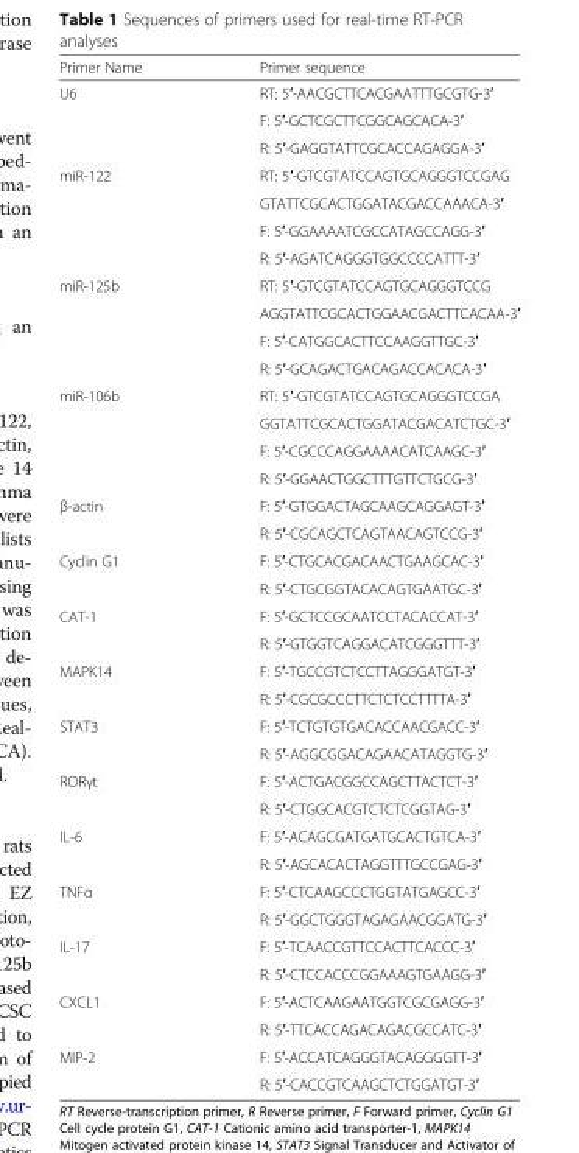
<table><thead><tr><td>Primer Name</td><td>Primer sequence</td></tr></thead><tbody><tr><td rowspan="3">U6</td><td>RT: 5′-AACGCTTCACGAATTTGCGTG-3′</td></tr><tr><td>F: 5′-GCTCGCTTCGGCAGCACA-3′</td></tr><tr><td>R: 5′-GAGGTATTCGCACCAGAGGA-3′</td></tr><tr><td rowspan="4">miR-122</td><td>RT: 5′-GTCGTATCCAGTGCAGGGTCCGAG</td></tr><tr><td>GTATTCGCACTGGATACGACCAAACA-3′</td></tr><tr><td>F: 5′-GGAAAATCGCCATAGCCAGG-3′</td></tr><tr><td>R: 5′-AGATCAGGGTGGCCCCATTT-3′</td></tr><tr><td rowspan="4">miR-125b</td><td>RT: 5′-GTCGTATCCAGTGCAGGGTCCG</td></tr><tr><td>AGGTATTCGCACTGGAACGACTTCACAA-3′</td></tr><tr><td>F: 5′-CATGGCACTTCCAAGGTTGC-3′</td></tr><tr><td>R: 5′-GCAGACTGACAGACCACACA-3′</td></tr><tr><td rowspan="4">miR-106b</td><td>RT: 5′-GTCGTATCCAGTGCAGGGTCCGA</td></tr><tr><td>GGTATTCGCACTGGATACGACATCTGC-3′</td></tr><tr><td>F: 5′-CGCCCAGGAAAACATCAAGC-3′</td></tr><tr><td>R: 5′-GGAACTGGCTTTGTTCTGCG-3′</td></tr><tr><td rowspan="2">β-actin</td><td>F: 5′-GTGGACTAGCAAGCAGGAGT-3′</td></tr><tr><td>R: 5′-CGCAGCTCAGTAACAGTCCG-3′</td></tr><tr><td rowspan="2">Cyclin G1</td><td>F: 5′-CTGCACGACAACTGAAGCAC-3′</td></tr><tr><td>R: 5′-CTGCGGTACACAGTGAATGC-3′</td></tr><tr><td rowspan="2">CAT-1</td><td>F: 5′-GCTCCGCAATCCTACACCAT-3′</td></tr><tr><td>R: 5′-GTGGTCAGGACATCGGGTTT-3′</td></tr><tr><td rowspan="2">MAPK14</td><td>F: 5′-TGCCGTCTCCTTAGGGATGT-3′</td></tr><tr><td>R: 5′-CGCGCCCTTCTCTCCTTTTA-3′</td></tr><tr><td rowspan="2">STAT3</td><td>F: 5′-TCTGTGTGACACCAACGACC-3′</td></tr><tr><td>R: 5′-AGGCGGACAGAACATAGGTG-3′</td></tr><tr><td rowspan="2">RORγt</td><td>F: 5′-ACTGACGGCCAGCTTACTCT-3′</td></tr><tr><td>R: 5′-CTGGCACGTCTCTCGGTAG-3′</td></tr><tr><td rowspan="2">IL-6</td><td>F: 5′-ACAGCGATGATGCACTGTCA-3′</td></tr><tr><td>R: 5′-AGCACACTAGGTTTGCCGAG-3′</td></tr><tr><td rowspan="2">TNFα</td><td>F: 5′-CTCAAGCCCTGGTATGAGCC-3′</td></tr><tr><td>R: 5′-GGCTGGGTAGAGAACGGATG-3′</td></tr><tr><td rowspan="2">IL-17</td><td>F: 5′-TCAACCGTTCCACTTCACCC-3′</td></tr><tr><td>R: 5′-CTCCACCCGGAAAGTGAAGG-3′</td></tr><tr><td rowspan="2">CXCL1</td><td>F: 5′-ACTCAAGAATGGTCGCGAGG-3′</td></tr><tr><td>R: 5′-TTCACCAGACAGACGCCATC-3′</td></tr><tr><td rowspan="2">MIP-2</td><td>F: 5′-ACCATCAGGGTACAGGGGTT-3′</td></tr><tr><td>R: 5′-CACCGTCAAGCTCTGGATGT-3′</td></tr></tbody></table>